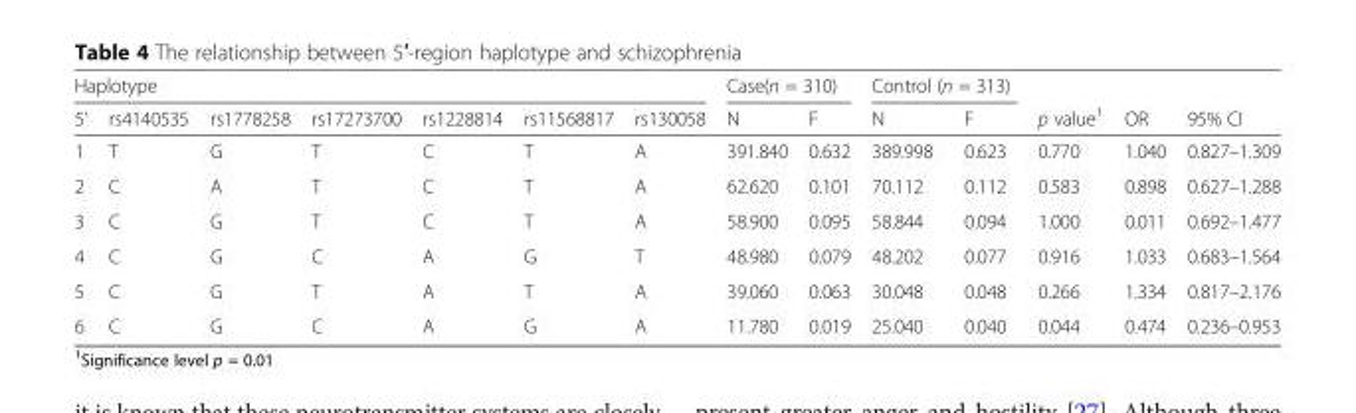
<table><thead><tr><td colspan="7">Haplotype</td><td colspan="2">Case(n = 310)</td><td colspan="2">Control (n = 313)</td><td rowspan="2">p value<sup>1</sup></td><td rowspan="2">OR</td><td rowspan="2">95% CI</td></tr><tr><td>5’</td><td>rs4140535</td><td>rs1778258</td><td>rs17273700</td><td>rs1228814</td><td>rs11568817</td><td>rs130058</td><td>N</td><td>F</td><td>N</td><td>F</td></tr></thead><tbody><tr><td>1</td><td>T</td><td>G</td><td>T</td><td>C</td><td>T</td><td>A</td><td>391.840</td><td>0.632</td><td>389.998</td><td>0.623</td><td>0.770</td><td>1.040</td><td>0.827–1.309</td></tr><tr><td>2</td><td>C</td><td>A</td><td>T</td><td>C</td><td>T</td><td>A</td><td>62.620</td><td>0.101</td><td>70.112</td><td>0.112</td><td>0.583</td><td>0.898</td><td>0.627–1.288</td></tr><tr><td>3</td><td>C</td><td>G</td><td>T</td><td>C</td><td>T</td><td>A</td><td>58.900</td><td>0.095</td><td>58.844</td><td>0.094</td><td>1.000</td><td>0.011</td><td>0.692–1.477</td></tr><tr><td>4</td><td>C</td><td>G</td><td>C</td><td>A</td><td>G</td><td>T</td><td>48.980</td><td>0.079</td><td>48.202</td><td>0.077</td><td>0.916</td><td>1.033</td><td>0.683–1.564</td></tr><tr><td>5</td><td>C</td><td>G</td><td>T</td><td>A</td><td>T</td><td>A</td><td>39.060</td><td>0.063</td><td>30.048</td><td>0.048</td><td>0.266</td><td>1.334</td><td>0.817–2.176</td></tr><tr><td>6</td><td>C</td><td>G</td><td>C</td><td>A</td><td>G</td><td>A</td><td>11.780</td><td>0.019</td><td>25.040</td><td>0.040</td><td>0.044</td><td>0.474</td><td>0.236–0.953</td></tr></tbody></table>